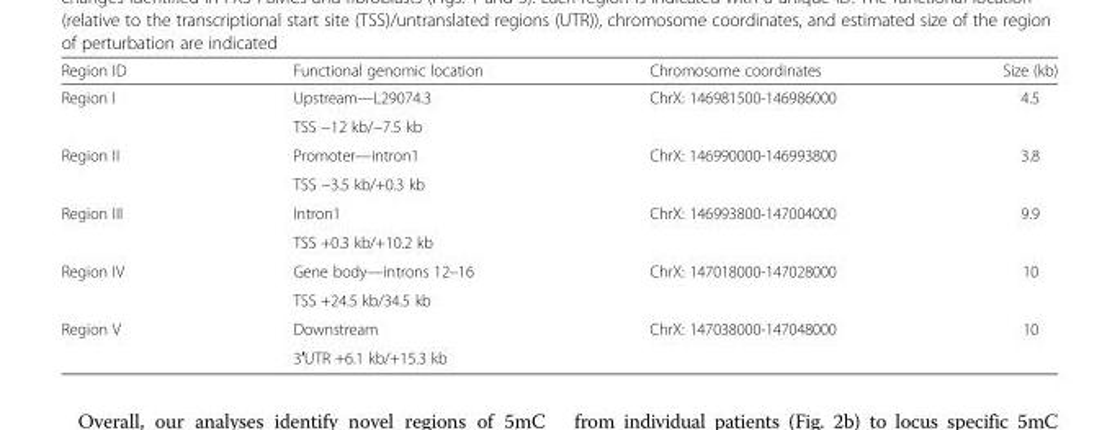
<table><thead><tr><td>Region ID</td><td>Functional genomic location</td><td>Chromosome coordinates</td><td>Size (kb)</td></tr></thead><tbody><tr><td rowspan="2">Region I</td><td>Upstream—L29074.3</td><td rowspan="2">ChrX: 146981500-146986000</td><td rowspan="2">4.5</td></tr><tr><td>TSS −12 kb/−7.5 kb</td></tr><tr><td rowspan="2">Region II</td><td>Promoter—intron1</td><td rowspan="2">ChrX: 146990000-146993800</td><td rowspan="2">3.8</td></tr><tr><td>TSS −3.5 kb/+0.3 kb</td></tr><tr><td rowspan="2">Region III</td><td>Intron1</td><td rowspan="2">ChrX: 146993800-147004000</td><td rowspan="2">9.9</td></tr><tr><td>TSS +0.3 kb/+10.2 kb</td></tr><tr><td rowspan="2">Region IV</td><td>Gene body—introns 12–16</td><td rowspan="2">ChrX: 147018000-147028000</td><td rowspan="2">10</td></tr><tr><td>TSS +24.5 kb/34.5 kb</td></tr><tr><td rowspan="2">Region V</td><td>Downstream</td><td rowspan="2">ChrX: 147038000-147048000</td><td rowspan="2">10</td></tr><tr><td>3′UTR +6.1 kb/+15.3 kb</td></tr></tbody></table>